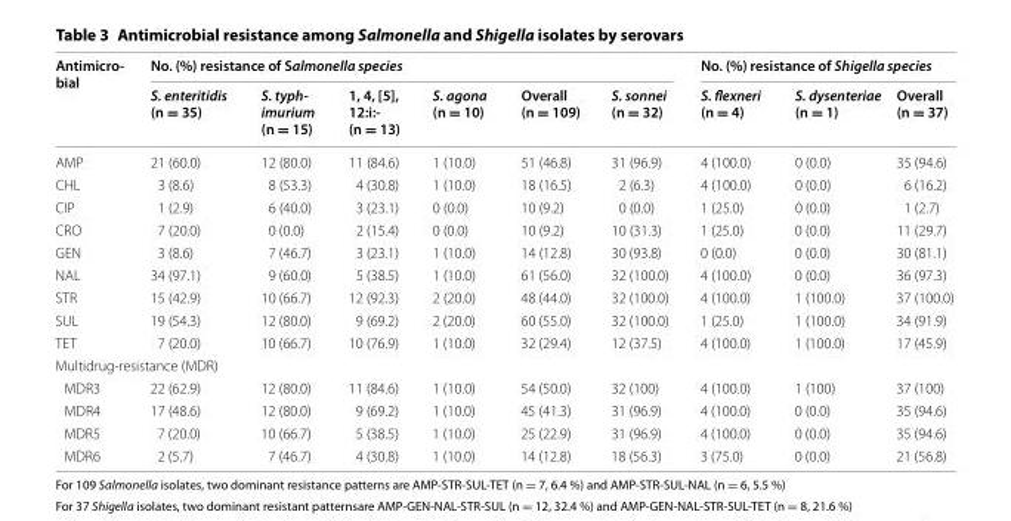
<table><thead><tr><td rowspan="2">Antimicro- bial</td><td colspan="6">No. (%) resistance of Salmonella species</td><td colspan="3">No. (%) resistance of Shigella species</td></tr><tr><td>S. enteritidis (n = 35)</td><td>S. typh- imurium (n = 15)</td><td>1, 4, [5], 12:i:- (n = 13)</td><td>S. agona (n = 10)</td><td>Overall (n = 109)</td><td>S. sonnei (n = 32)</td><td>S. flexneri (n = 4)</td><td>S. dysenteriae (n = 1)</td><td>Overall (n = 37)</td></tr></thead><tbody><tr><td>AMP</td><td>21 (60.0)</td><td>12 (80.0)</td><td>11 (84.6)</td><td>1 (10.0)</td><td>51 (46.8)</td><td>31 (96.9)</td><td>4 (100.0)</td><td>0 (0.0)</td><td>35 (94.6)</td></tr><tr><td>CHL</td><td>3 (8.6)</td><td>8 (53.3)</td><td>4 (30.8)</td><td>1 (10.0)</td><td>18 (16.5)</td><td>2 (6.3)</td><td>4 (100.0)</td><td>0 (0.0)</td><td>6 (16.2)</td></tr><tr><td>CIP</td><td>1 (2.9)</td><td>6 (40.0)</td><td>3 (23.1)</td><td>0 (0.0)</td><td>10 (9.2)</td><td>0 (0.0)</td><td>1 (25.0)</td><td>0 (0.0)</td><td>1 (2.7)</td></tr><tr><td>CRO</td><td>7 (20.0)</td><td>0 (0.0)</td><td>2 (15.4)</td><td>0 (0.0)</td><td>10 (9.2)</td><td>10 (31.3)</td><td>1 (25.0)</td><td>0 (0.0)</td><td>11 (29.7)</td></tr><tr><td>GEN</td><td>3 (8.6)</td><td>7 (46.7)</td><td>3 (23.1)</td><td>1 (10.0)</td><td>14 (12.8)</td><td>30 (93.8)</td><td>0 (0.0)</td><td>0 (0.0)</td><td>30 (81.1)</td></tr><tr><td>NAL</td><td>34 (97.1)</td><td>9 (60.0)</td><td>5 (38.5)</td><td>1 (10.0)</td><td>61 (56.0)</td><td>32 (100.0)</td><td>4 (100.0)</td><td>0 (0.0)</td><td>36 (97.3)</td></tr><tr><td>STR</td><td>15 (42.9)</td><td>10 (66.7)</td><td>12 (92.3)</td><td>2 (20.0)</td><td>48 (44.0)</td><td>32 (100.0)</td><td>4 (100.0)</td><td>1 (100.0)</td><td>37 (100.0)</td></tr><tr><td>SUL</td><td>19 (54.3)</td><td>12 (80.0)</td><td>9 (69.2)</td><td>2 (20.0)</td><td>60 (55.0)</td><td>32 (100.0)</td><td>1 (25.0)</td><td>1 (100.0)</td><td>34 (91.9)</td></tr><tr><td>TET</td><td>7 (20.0)</td><td>10 (66.7)</td><td>10 (76.9)</td><td>1 (10.0)</td><td>32 (29.4)</td><td>12 (37.5)</td><td>4 (100.0)</td><td>1 (100.0)</td><td>17 (45.9)</td></tr><tr><td colspan="10">Multidrug-resistance (MDR)</td></tr><tr><td>MDR3</td><td>22 (62.9)</td><td>12 (80.0)</td><td>11 (84.6)</td><td>1 (10.0)</td><td>54 (50.0)</td><td>32 (100)</td><td>4 (100.0)</td><td>1 (100)</td><td>37 (100)</td></tr><tr><td>MDR4</td><td>17 (48.6)</td><td>12 (80.0)</td><td>9 (69.2)</td><td>1 (10.0)</td><td>45 (41.3)</td><td>31 (96.9)</td><td>4 (100.0)</td><td>0 (0.0)</td><td>35 (94.6)</td></tr><tr><td>MDR5</td><td>7 (20.0)</td><td>10 (66.7)</td><td>5 (38.5)</td><td>1 (10.0)</td><td>25 (22.9)</td><td>31 (96.9)</td><td>4 (100.0)</td><td>0 (0.0)</td><td>35 (94.6)</td></tr><tr><td>MDR6</td><td>2 (5.7)</td><td>7 (46.7)</td><td>4 (30.8)</td><td>1 (10.0)</td><td>14 (12.8)</td><td>18 (56.3)</td><td>3 (75.0)</td><td>0 (0.0)</td><td>21 (56.8)</td></tr></tbody></table>